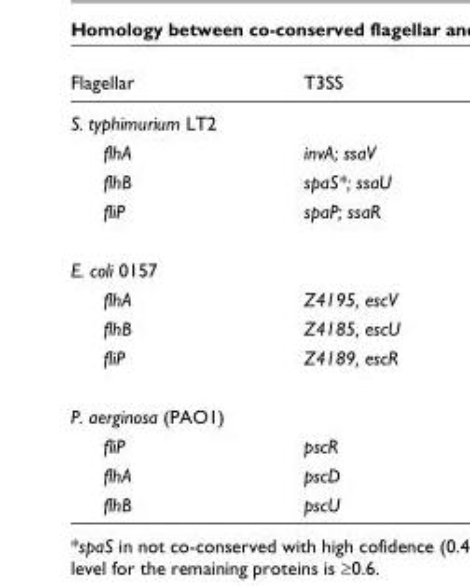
<table><thead><tr><td>Flagellar</td><td>T3SS</td></tr></thead><tbody><tr><td colspan="2">S. typhimurium LT2</td></tr><tr><td>flhA</td><td>invA; ssaV</td></tr><tr><td>flhB</td><td>spaS*; ssaU</td></tr><tr><td>fliP</td><td>spaP; ssaR</td></tr><tr><td colspan="2">E. coli 0157</td></tr><tr><td>flhA</td><td>Z4195, escV</td></tr><tr><td>flhB</td><td>Z4185, escU</td></tr><tr><td>fliP</td><td>Z4189, escR</td></tr><tr><td colspan="2">P. aerginosa (PAO1)</td></tr><tr><td>fliP</td><td>pscR</td></tr><tr><td>flhA</td><td>pscD</td></tr><tr><td>flhB</td><td>pscU</td></tr></tbody></table>